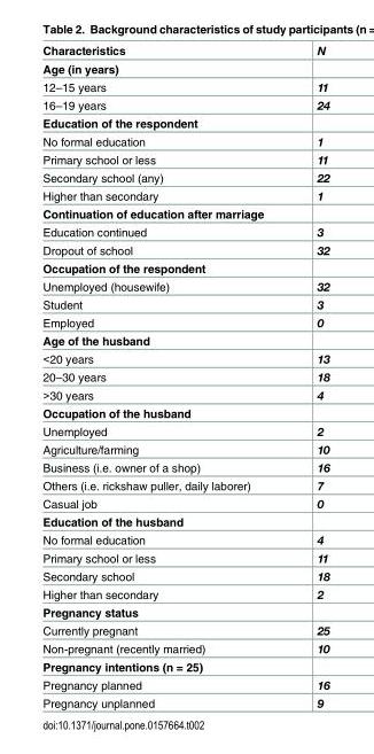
<table><thead><tr><td>Characteristics</td><td>N</td></tr></thead><tbody><tr><td colspan="2">Age (in years)</td></tr><tr><td>12–15 years</td><td>11</td></tr><tr><td>16–19 years</td><td>24</td></tr><tr><td colspan="2">Education of the respondent</td></tr><tr><td>No formal education</td><td>1</td></tr><tr><td>Primary school or less</td><td>11</td></tr><tr><td>Secondary school (any)</td><td>22</td></tr><tr><td>Higher than secondary</td><td>1</td></tr><tr><td colspan="2">Continuation of education after marriage</td></tr><tr><td>Education continued</td><td>3</td></tr><tr><td>Dropout of school</td><td>32</td></tr><tr><td colspan="2">Occupation of the respondent</td></tr><tr><td>Unemployed (housewife)</td><td>32</td></tr><tr><td>Student</td><td>3</td></tr><tr><td>Employed</td><td>0</td></tr><tr><td colspan="2">Age of the husband</td></tr><tr><td>&lt;20 years</td><td>13</td></tr><tr><td>20–30 years</td><td>18</td></tr><tr><td>&gt;30 years</td><td>4</td></tr><tr><td colspan="2">Occupation of the husband</td></tr><tr><td>Unemployed</td><td>2</td></tr><tr><td>Agriculture/farming</td><td>10</td></tr><tr><td>Business (i.e. owner of a shop)</td><td>16</td></tr><tr><td>Others (i.e. rickshaw puller, daily laborer)</td><td>7</td></tr><tr><td>Casual job</td><td>0</td></tr><tr><td colspan="2">Education of the husband</td></tr><tr><td>No formal education</td><td>4</td></tr><tr><td>Primary school or less</td><td>11</td></tr><tr><td>Secondary school</td><td>18</td></tr><tr><td>Higher than secondary</td><td>2</td></tr><tr><td colspan="2">Pregnancy status</td></tr><tr><td>Currently pregnant</td><td>25</td></tr><tr><td>Non-pregnant (recently married)</td><td>10</td></tr><tr><td colspan="2">Pregnancy intentions (n = 25)</td></tr><tr><td>Pregnancy planned</td><td>16</td></tr><tr><td>Pregnancy unplanned</td><td>9</td></tr></tbody></table>